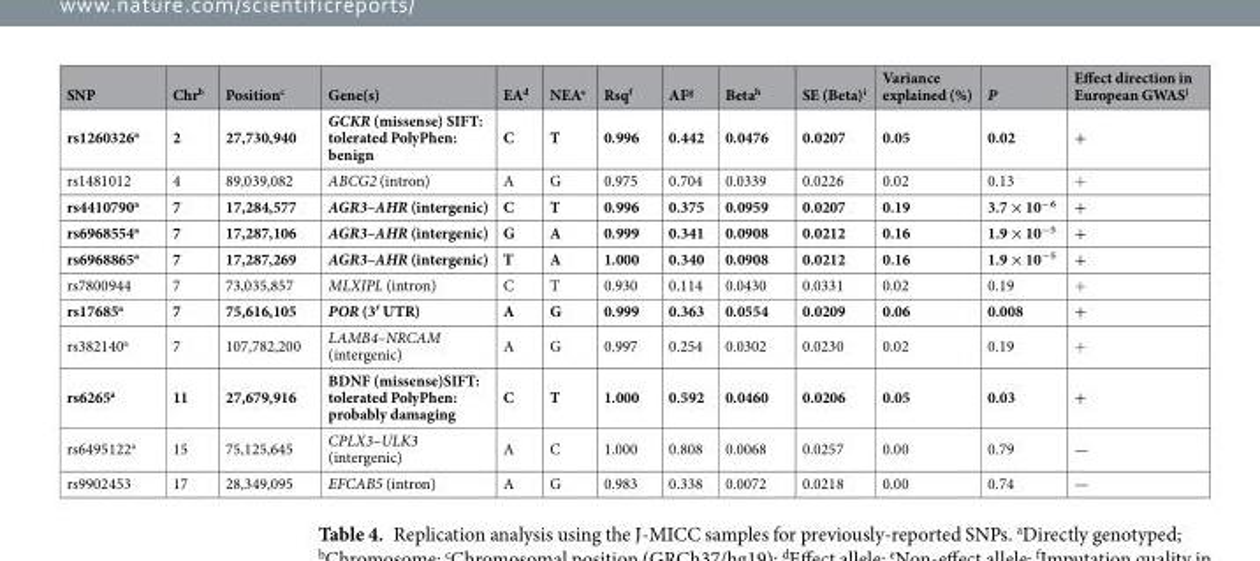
<table><thead><tr><td>SNP</td><td>Chr<sup>b</sup></td><td>Position<sup>c</sup></td><td>Gene(s)</td><td>EA<sup>d</sup></td><td>NEA<sup>e</sup></td><td>Rsq<sup>f</sup></td><td>AF<sup>g</sup></td><td>Beta<sup>h</sup></td><td>SE (Beta)<sup>i</sup></td><td>Variance explained (%)</td><td>P</td><td>Effect direction in European GWAS<sup>j</sup></td></tr></thead><tbody><tr><td>rs1260326<sup>a</sup></td><td>2</td><td>27,730,940</td><td>GCKR (missense) SIFT: tolerated PolyPhen: benign</td><td>C</td><td>T</td><td>0.996</td><td>0.442</td><td>0.0476</td><td>0.0207</td><td>0.05</td><td>0.02</td><td>+</td></tr><tr><td>rs1481012</td><td>4</td><td>89,039,082</td><td>ABCG2 (intron)</td><td>A</td><td>G</td><td>0.975</td><td>0.704</td><td>0.0339</td><td>0.0226</td><td>0.02</td><td>0.13</td><td>+</td></tr><tr><td>rs4410790<sup>a</sup></td><td>7</td><td>17,284,577</td><td>AGR3–AHR (intergenic)</td><td>C</td><td>T</td><td>0.996</td><td>0.375</td><td>0.0959</td><td>0.0207</td><td>0.19</td><td>3.7 × 10<sup>−6</sup></td><td>+</td></tr><tr><td>rs6968554<sup>a</sup></td><td>7</td><td>17,287,106</td><td>AGR3–AHR (intergenic)</td><td>G</td><td>A</td><td>0.999</td><td>0.341</td><td>0.0908</td><td>0.0212</td><td>0.16</td><td>1.9 × 10<sup>−5</sup></td><td>+</td></tr><tr><td>rs6968865<sup>a</sup></td><td>7</td><td>17,287,269</td><td>AGR3–AHR (intergenic)</td><td>T</td><td>A</td><td>1.000</td><td>0.340</td><td>0.0908</td><td>0.0212</td><td>0.16</td><td>1.9 × 10<sup>−5</sup></td><td>+</td></tr><tr><td>rs7800944</td><td>7</td><td>73,035,857</td><td>MLXIPL (intron)</td><td>C</td><td>T</td><td>0.930</td><td>0.114</td><td>0.0430</td><td>0.0331</td><td>0.02</td><td>0.19</td><td>+</td></tr><tr><td>rs17685<sup>a</sup></td><td>7</td><td>75,616,105</td><td>POR (3′ UTR)</td><td>A</td><td>G</td><td>0.999</td><td>0.363</td><td>0.0554</td><td>0.0209</td><td>0.06</td><td>0.008</td><td>+</td></tr><tr><td>rs382140<sup>a</sup></td><td>7</td><td>107,782,200</td><td>LAMB4–NRCAM (intergenic)</td><td>A</td><td>G</td><td>0.997</td><td>0.254</td><td>0.0302</td><td>0.0230</td><td>0.02</td><td>0.19</td><td>+</td></tr><tr><td>rs6265<sup>a</sup></td><td>11</td><td>27,679,916</td><td>BDNF (missense)SIFT: tolerated PolyPhen: probably damaging</td><td>C</td><td>T</td><td>1.000</td><td>0.592</td><td>0.0460</td><td>0.0206</td><td>0.05</td><td>0.03</td><td>+</td></tr><tr><td>rs6495122<sup>a</sup></td><td>15</td><td>75,125,645</td><td>CPLX3–ULK3 (intergenic)</td><td>A</td><td>C</td><td>1.000</td><td>0.808</td><td>0.0068</td><td>0.0257</td><td>0.00</td><td>0.79</td><td>—</td></tr><tr><td>rs9902453</td><td>17</td><td>28,349,095</td><td>EFCAB5 (intron)</td><td>A</td><td>G</td><td>0.983</td><td>0.338</td><td>0.0072</td><td>0.0218</td><td>0.00</td><td>0.74</td><td>—</td></tr></tbody></table>